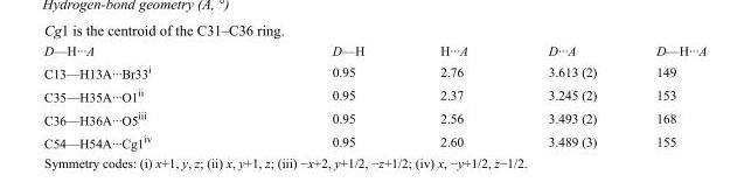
<table><tbody><tr><td>D—H···A</td><td>D—H</td><td>H···A</td><td>D···A</td><td>D—H···A</td></tr><tr><td>C13—H13A···Br33<sup>i</sup></td><td>0.95</td><td>2.76</td><td>3.613 (2)</td><td>149</td></tr><tr><td>C35—H35A···O1<sup>ii</sup></td><td>0.95</td><td>2.37</td><td>3.245 (2)</td><td>153</td></tr><tr><td>C36—H36A···O5<sup>iii</sup></td><td>0.95</td><td>2.56</td><td>3.493 (2)</td><td>168</td></tr><tr><td>C54—H54A···Cg1<sup>iv</sup></td><td>0.95</td><td>2.60</td><td>3.489 (3)</td><td>155</td></tr></tbody></table>